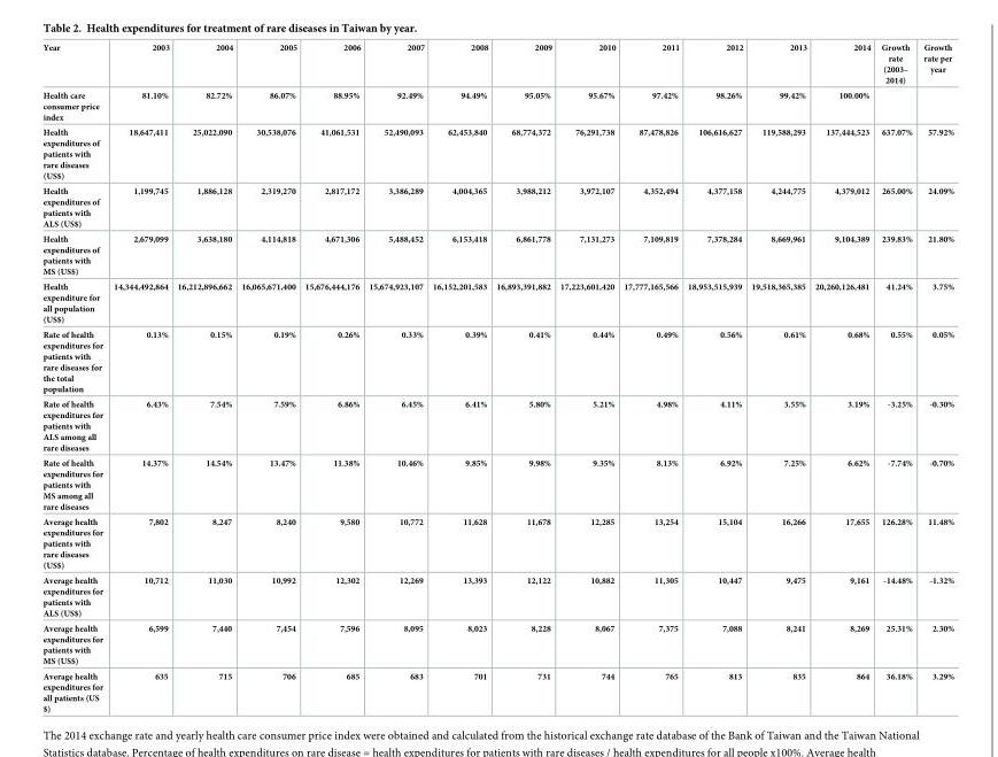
<table><thead><tr><td>Year</td><td>2003</td><td>2004</td><td>2005</td><td>2006</td><td>2007</td><td>2008</td><td>2009</td><td>2010</td><td>2011</td><td>2012</td><td>2013</td><td>2014</td><td>Growth rate (2003– 2014)</td><td>Growth rate per year</td></tr></thead><tbody><tr><td>Health care consumer price index</td><td>81.10%</td><td>82.72%</td><td>86.07%</td><td>88.95%</td><td>92.49%</td><td>94.49%</td><td>95.05%</td><td>95.67%</td><td>97.42%</td><td>98.26%</td><td>99.42%</td><td>100.00%</td><td></td><td></td></tr><tr><td>Health expenditures of patients with rare diseases (US$)</td><td>18,647,411</td><td>25,022,090</td><td>30,538,076</td><td>41,061,531</td><td>52,490,093</td><td>62,453,840</td><td>68,774,372</td><td>76,291,738</td><td>87,478,826</td><td>106,616,627</td><td>119,588,293</td><td>137,444,523</td><td>637.07%</td><td>57.92%</td></tr><tr><td>Health expenditures of patients with ALS (US$)</td><td>1,199,745</td><td>1,886,128</td><td>2,319,270</td><td>2,817,172</td><td>3,386,289</td><td>4,004,365</td><td>3,988,212</td><td>3,972,107</td><td>4,352,494</td><td>4,377,158</td><td>4,244,775</td><td>4,379,012</td><td>265.00%</td><td>24.09%</td></tr><tr><td>Health expenditures of patients with MS (US$)</td><td>2,679,099</td><td>3,638,180</td><td>4,114,818</td><td>4,671,306</td><td>5,488,452</td><td>6,153,418</td><td>6,861,778</td><td>7,131,273</td><td>7,109,819</td><td>7,378,284</td><td>8,669,961</td><td>9,104,389</td><td>239.83%</td><td>21.80%</td></tr><tr><td>Health expenditure for all population (US$)</td><td>14,344,492,864</td><td>16,212,896,662</td><td>16,065,671,400</td><td>15,676,444,176</td><td>15,674,923,107</td><td>16,152,201,583</td><td>16,893,391,882</td><td>17,223,601,420</td><td>17,777,165,566</td><td>18,953,515,939</td><td>19,518,365,385</td><td>20,260,126,481</td><td>41.24%</td><td>3.75%</td></tr><tr><td>Rate of health expenditures for patients with rare diseases for the total population</td><td>0.13%</td><td>0.15%</td><td>0.19%</td><td>0.26%</td><td>0.33%</td><td>0.39%</td><td>0.41%</td><td>0.44%</td><td>0.49%</td><td>0.56%</td><td>0.61%</td><td>0.68%</td><td>0.55%</td><td>0.05%</td></tr><tr><td>Rate of health expenditures for patients with ALS among all rare diseases</td><td>6.43%</td><td>7.54%</td><td>7.59%</td><td>6.86%</td><td>6.45%</td><td>6.41%</td><td>5.80%</td><td>5.21%</td><td>4.98%</td><td>4.11%</td><td>3.55%</td><td>3.19%</td><td>-3.25%</td><td>-0.30%</td></tr><tr><td>Rate of health expenditures for patients with MS among all rare diseases</td><td>14.37%</td><td>14.54%</td><td>13.47%</td><td>11.38%</td><td>10.46%</td><td>9.85%</td><td>9.98%</td><td>9.35%</td><td>8.13%</td><td>6.92%</td><td>7.25%</td><td>6.62%</td><td>-7.74%</td><td>-0.70%</td></tr><tr><td>Average health expenditures for patients with rare diseases (US$)</td><td>7,802</td><td>8,247</td><td>8,240</td><td>9,580</td><td>10,772</td><td>11,628</td><td>11,678</td><td>12,285</td><td>13,254</td><td>15,104</td><td>16,266</td><td>17,655</td><td>126.28%</td><td>11.48%</td></tr><tr><td>Average health expenditures for patients with ALS (US$)</td><td>10,712</td><td>11,030</td><td>10,992</td><td>12,302</td><td>12,269</td><td>13,393</td><td>12,122</td><td>10,882</td><td>11,305</td><td>10,447</td><td>9,475</td><td>9,161</td><td>-14.48%</td><td>-1.32%</td></tr><tr><td>Average health expenditures for patients with MS (US$)</td><td>6,599</td><td>7,440</td><td>7,454</td><td>7,596</td><td>8,095</td><td>8,023</td><td>8,228</td><td>8,067</td><td>7,375</td><td>7,088</td><td>8,241</td><td>8,269</td><td>25.31%</td><td>2.30%</td></tr><tr><td>Average health expenditures for all patients (US $)</td><td>635</td><td>715</td><td>706</td><td>685</td><td>683</td><td>701</td><td>731</td><td>744</td><td>765</td><td>813</td><td>835</td><td>864</td><td>36.18%</td><td>3.29%</td></tr></tbody></table>